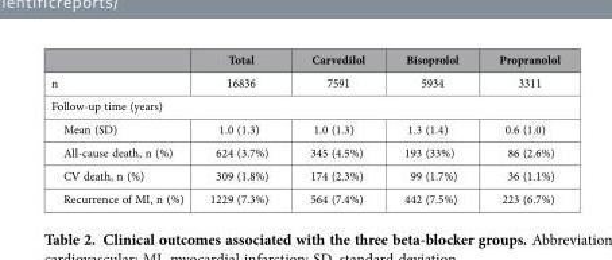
<table><thead><tr><td rowspan="2">n</td><td rowspan="2">Total 16836</td><td rowspan="2">Carvedilol 7591</td><td rowspan="2">Bisoprolol 5934</td><td rowspan="2">Propranolol 3311</td></tr><tr></tr></thead><tbody><tr><td colspan="5">Follow-up time (years)</td></tr><tr><td>Mean (SD)</td><td>1.0 (1.3)</td><td>1.0 (1.3)</td><td>1.3 (1.4)</td><td>0.6 (1.0)</td></tr><tr><td>All-cause death, n (%)</td><td>624 (3.7%)</td><td>345 (4.5%)</td><td>193 (33%)</td><td>86 (2.6%)</td></tr><tr><td>CV death, n (%)</td><td>309 (1.8%)</td><td>174 (2.3%)</td><td>99 (1.7%)</td><td>36 (1.1%)</td></tr><tr><td>Recurrence of MI, n (%)</td><td>1229 (7.3%)</td><td>564 (7.4%)</td><td>442 (7.5%)</td><td>223 (6.7%)</td></tr></tbody></table>